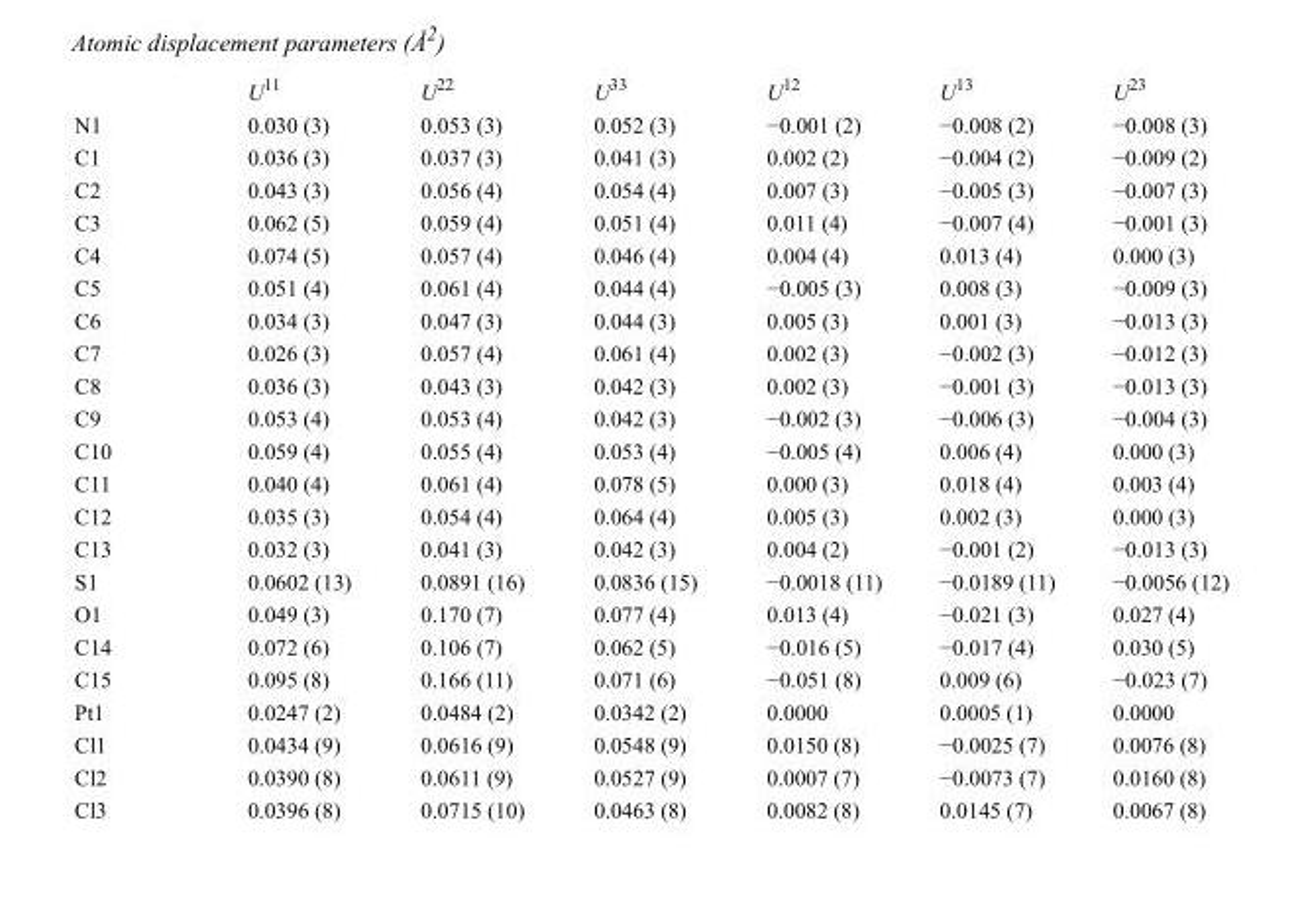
<table><thead><tr><td></td><td>U<sup>11</sup></td><td>U<sup>22</sup></td><td>U<sup>33</sup></td><td>U<sup>12</sup></td><td>U<sup>13</sup></td><td>U<sup>23</sup></td></tr></thead><tbody><tr><td>N1</td><td>0.030 (3)</td><td>0.053 (3)</td><td>0.052 (3)</td><td>−0.001 (2)</td><td>−0.008 (2)</td><td>−0.008 (3)</td></tr><tr><td>C1</td><td>0.036 (3)</td><td>0.037 (3)</td><td>0.041 (3)</td><td>0.002 (2)</td><td>−0.004 (2)</td><td>−0.009 (2)</td></tr><tr><td>C2</td><td>0.043 (3)</td><td>0.056 (4)</td><td>0.054 (4)</td><td>0.007 (3)</td><td>−0.005 (3)</td><td>−0.007 (3)</td></tr><tr><td>C3</td><td>0.062 (5)</td><td>0.059 (4)</td><td>0.051 (4)</td><td>0.011 (4)</td><td>−0.007 (4)</td><td>−0.001 (3)</td></tr><tr><td>C4</td><td>0.074 (5)</td><td>0.057 (4)</td><td>0.046 (4)</td><td>0.004 (4)</td><td>0.013 (4)</td><td>0.000 (3)</td></tr><tr><td>C5</td><td>0.051 (4)</td><td>0.061 (4)</td><td>0.044 (4)</td><td>−0.005 (3)</td><td>0.008 (3)</td><td>−0.009 (3)</td></tr><tr><td>C6</td><td>0.034 (3)</td><td>0.047 (3)</td><td>0.044 (3)</td><td>0.005 (3)</td><td>0.001 (3)</td><td>−0.013 (3)</td></tr><tr><td>C7</td><td>0.026 (3)</td><td>0.057 (4)</td><td>0.061 (4)</td><td>0.002 (3)</td><td>−0.002 (3)</td><td>−0.012 (3)</td></tr><tr><td>C8</td><td>0.036 (3)</td><td>0.043 (3)</td><td>0.042 (3)</td><td>0.002 (3)</td><td>−0.001 (3)</td><td>−0.013 (3)</td></tr><tr><td>C9</td><td>0.053 (4)</td><td>0.053 (4)</td><td>0.042 (3)</td><td>−0.002 (3)</td><td>−0.006 (3)</td><td>−0.004 (3)</td></tr><tr><td>C10</td><td>0.059 (4)</td><td>0.055 (4)</td><td>0.053 (4)</td><td>−0.005 (4)</td><td>0.006 (4)</td><td>0.000 (3)</td></tr><tr><td>C11</td><td>0.040 (4)</td><td>0.061 (4)</td><td>0.078 (5)</td><td>0.000 (3)</td><td>0.018 (4)</td><td>0.003 (4)</td></tr><tr><td>C12</td><td>0.035 (3)</td><td>0.054 (4)</td><td>0.064 (4)</td><td>0.005 (3)</td><td>0.002 (3)</td><td>0.000 (3)</td></tr><tr><td>C13</td><td>0.032 (3)</td><td>0.041 (3)</td><td>0.042 (3)</td><td>0.004 (2)</td><td>−0.001 (2)</td><td>−0.013 (3)</td></tr><tr><td>S1</td><td>0.0602 (13)</td><td>0.0891 (16)</td><td>0.0836 (15)</td><td>−0.0018 (11)</td><td>−0.0189 (11)</td><td>−0.0056 (12)</td></tr><tr><td>O1</td><td>0.049 (3)</td><td>0.170 (7)</td><td>0.077 (4)</td><td>0.013 (4)</td><td>−0.021 (3)</td><td>0.027 (4)</td></tr><tr><td>C14</td><td>0.072 (6)</td><td>0.106 (7)</td><td>0.062 (5)</td><td>−0.016 (5)</td><td>−0.017 (4)</td><td>0.030 (5)</td></tr><tr><td>C15</td><td>0.095 (8)</td><td>0.166 (11)</td><td>0.071 (6)</td><td>−0.051 (8)</td><td>0.009 (6)</td><td>−0.023 (7)</td></tr><tr><td>Pt1</td><td>0.0247 (2)</td><td>0.0484 (2)</td><td>0.0342 (2)</td><td>0.0000</td><td>0.0005 (1)</td><td>0.0000</td></tr><tr><td>Cl1</td><td>0.0434 (9)</td><td>0.0616 (9)</td><td>0.0548 (9)</td><td>0.0150 (8)</td><td>−0.0025 (7)</td><td>0.0076 (8)</td></tr><tr><td>Cl2</td><td>0.0390 (8)</td><td>0.0611 (9)</td><td>0.0527 (9)</td><td>0.0007 (7)</td><td>−0.0073 (7)</td><td>0.0160 (8)</td></tr><tr><td>Cl3</td><td>0.0396 (8)</td><td>0.0715 (10)</td><td>0.0463 (8)</td><td>0.0082 (8)</td><td>0.0145 (7)</td><td>0.0067 (8)</td></tr></tbody></table>